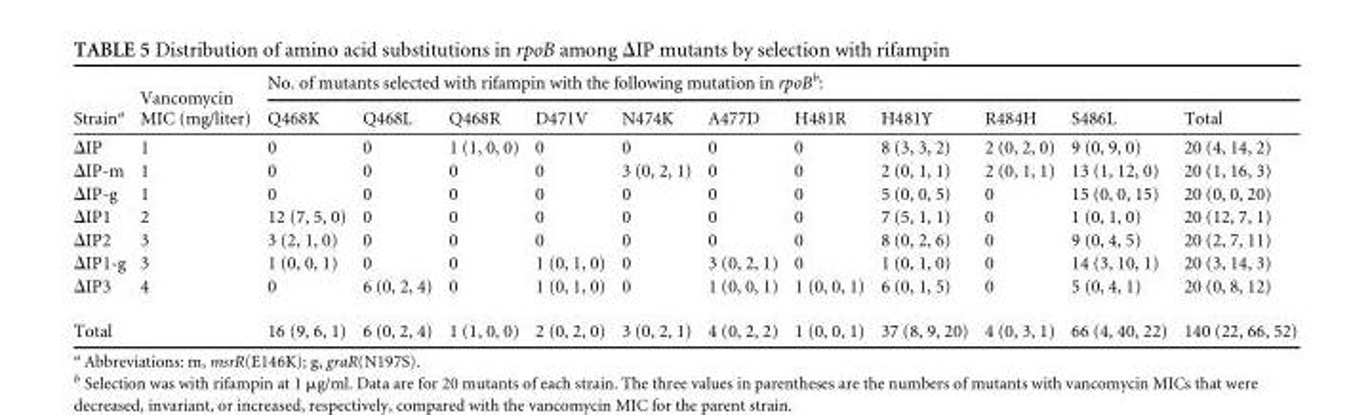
<table><thead><tr><td rowspan="2">Strain<sup>a</sup></td><td rowspan="2">Vancomycin MIC (mg/liter)</td><td colspan="11">No. of mutants selected with rifampin with the following mutation in rpoB<sup>b</sup>:</td></tr><tr><td>Q468K</td><td>Q468L</td><td>Q468R</td><td>D471V</td><td>N474K</td><td>A477D</td><td>H481R</td><td>H481Y</td><td>R484H</td><td>S486L</td><td>Total</td></tr></thead><tbody><tr><td>ΔIP</td><td>1</td><td>0</td><td>0</td><td>1 (1, 0, 0)</td><td>0</td><td>0</td><td>0</td><td>0</td><td>8 (3, 3, 2)</td><td>2 (0, 2, 0)</td><td>9 (0, 9, 0)</td><td>20 (4, 14, 2)</td></tr><tr><td>ΔIP-m</td><td>1</td><td>0</td><td>0</td><td>0</td><td>0</td><td>3 (0, 2, 1)</td><td>0</td><td>0</td><td>2 (0, 1, 1)</td><td>2 (0, 1, 1)</td><td>13 (1, 12, 0)</td><td>20 (1, 16, 3)</td></tr><tr><td>ΔIP-g</td><td>1</td><td>0</td><td>0</td><td>0</td><td>0</td><td>0</td><td>0</td><td>0</td><td>5 (0, 0, 5)</td><td>0</td><td>15 (0, 0, 15)</td><td>20 (0, 0, 20)</td></tr><tr><td>ΔIP1</td><td>2</td><td>12 (7, 5, 0)</td><td>0</td><td>0</td><td>0</td><td>0</td><td>0</td><td>0</td><td>7 (5, 1, 1)</td><td>0</td><td>1 (0, 1, 0)</td><td>20 (12, 7, 1)</td></tr><tr><td>ΔIP2</td><td>3</td><td>3 (2, 1, 0)</td><td>0</td><td>0</td><td>0</td><td>0</td><td>0</td><td>0</td><td>8 (0, 2, 6)</td><td>0</td><td>9 (0, 4, 5)</td><td>20 (2, 7, 11)</td></tr><tr><td>ΔIP1-g</td><td>3</td><td>1 (0, 0, 1)</td><td>0</td><td>0</td><td>1 (0, 1, 0)</td><td>0</td><td>3 (0, 2, 1)</td><td>0</td><td>1 (0, 1, 0)</td><td>0</td><td>14 (3, 10, 1)</td><td>20 (3, 14, 3)</td></tr><tr><td>ΔIP3</td><td>4</td><td>0</td><td>6 (0, 2, 4)</td><td>0</td><td>1 (0, 1, 0)</td><td>0</td><td>1 (0, 0, 1)</td><td>1 (0, 0, 1)</td><td>6 (0, 1, 5)</td><td>0</td><td>5 (0, 4, 1)</td><td>20 (0, 8, 12)</td></tr><tr><td>Total</td><td></td><td>16 (9, 6, 1)</td><td>6 (0, 2, 4)</td><td>1 (1, 0, 0)</td><td>2 (0, 2, 0)</td><td>3 (0, 2, 1)</td><td>4 (0, 2, 2)</td><td>1 (0, 0, 1)</td><td>37 (8, 9, 20)</td><td>4 (0, 3, 1)</td><td>66 (4, 40, 22)</td><td>140 (22, 66, 52)</td></tr></tbody></table>